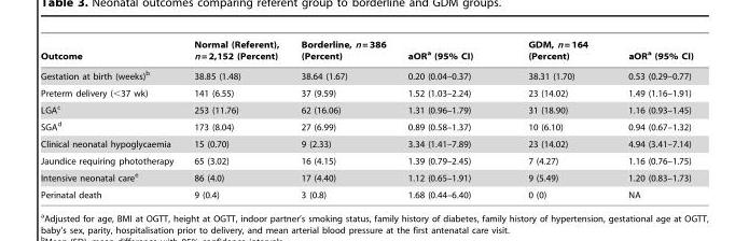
<table><thead><tr><td>Outcome</td><td>Normal (Referent), n = 2,152 (Percent)</td><td>Borderline, n = 386 (Percent)</td><td>aOR<sup>a</sup> (95% CI)</td><td>GDM, n = 164 (Percent)</td><td>aOR<sup>a</sup> (95% CI)</td></tr></thead><tbody><tr><td>Gestation at birth (weeks)<sup>b</sup></td><td>38.85 (1.48)</td><td>38.64 (1.67)</td><td>0.20 (0.04–0.37)</td><td>38.31 (1.70)</td><td>0.53 (0.29–0.77)</td></tr><tr><td>Preterm delivery (&lt;37 wk)</td><td>141 (6.55)</td><td>37 (9.59)</td><td>1.52 (1.03–2.24)</td><td>23 (14.02)</td><td>1.49 (1.16–1.91)</td></tr><tr><td>LGA<sup>c</sup></td><td>253 (11.76)</td><td>62 (16.06)</td><td>1.31 (0.96–1.79)</td><td>31 (18.90)</td><td>1.16 (0.93–1.45)</td></tr><tr><td>SGA<sup>d</sup></td><td>173 (8.04)</td><td>27 (6.99)</td><td>0.89 (0.58–1.37)</td><td>10 (6.10)</td><td>0.94 (0.67–1.32)</td></tr><tr><td>Clinical neonatal hypoglycaemia</td><td>15 (0.70)</td><td>9 (2.33)</td><td>3.34 (1.41–7.89)</td><td>23 (14.02)</td><td>4.94 (3.41–7.14)</td></tr><tr><td>Jaundice requiring phototherapy</td><td>65 (3.02)</td><td>16 (4.15)</td><td>1.39 (0.79–2.45)</td><td>7 (4.27)</td><td>1.16 (0.76–1.75)</td></tr><tr><td>Intensive neonatal care<sup>e</sup></td><td>86 (4.0)</td><td>17 (4.40)</td><td>1.12 (0.65–1.91)</td><td>9 (5.49)</td><td>1.20 (0.83–1.73)</td></tr><tr><td>Perinatal death</td><td>9 (0.4)</td><td>3 (0.8)</td><td>1.68 (0.44–6.40)</td><td>0 (0)</td><td>NA</td></tr></tbody></table>